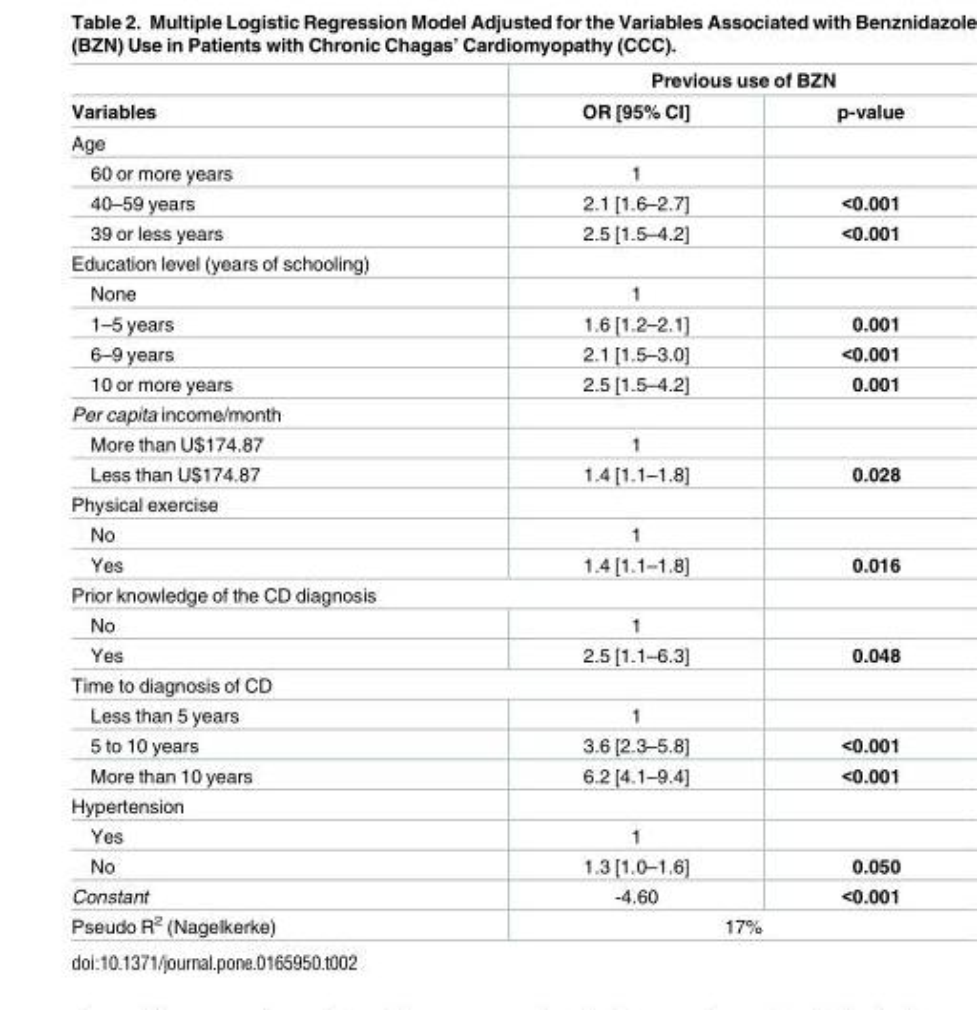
<table><thead><tr><td rowspan="2">Variables</td><td colspan="2">Previous use of BZN</td></tr><tr><td>OR [95% CI]</td><td>p-value</td></tr></thead><tbody><tr><td colspan="3">Age</td></tr><tr><td>60 or more years</td><td>1</td><td></td></tr><tr><td>40–59 years</td><td>2.1 [1.6–2.7]</td><td>&lt;0.001</td></tr><tr><td>39 or less years</td><td>2.5 [1.5–4.2]</td><td>&lt;0.001</td></tr><tr><td colspan="3">Education level (years of schooling)</td></tr><tr><td>None</td><td>1</td><td></td></tr><tr><td>1–5 years</td><td>1.6 [1.2–2.1]</td><td>0.001</td></tr><tr><td>6–9 years</td><td>2.1 [1.5–3.0]</td><td>&lt;0.001</td></tr><tr><td>10 or more years</td><td>2.5 [1.5–4.2]</td><td>0.001</td></tr><tr><td colspan="3">Per capita income/month</td></tr><tr><td>More than U$174.87</td><td>1</td><td></td></tr><tr><td>Less than U$174.87</td><td>1.4 [1.1–1.8]</td><td>0.028</td></tr><tr><td colspan="3">Physical exercise</td></tr><tr><td>No</td><td>1</td><td></td></tr><tr><td>Yes</td><td>1.4 [1.1–1.8]</td><td>0.016</td></tr><tr><td colspan="3">Prior knowledge of the CD diagnosis</td></tr><tr><td>No</td><td>1</td><td></td></tr><tr><td>Yes</td><td>2.5 [1.1–6.3]</td><td>0.048</td></tr><tr><td colspan="3">Time to diagnosis of CD</td></tr><tr><td>Less than 5 years</td><td>1</td><td></td></tr><tr><td>5 to 10 years</td><td>3.6 [2.3–5.8]</td><td>&lt;0.001</td></tr><tr><td>More than 10 years</td><td>6.2 [4.1–9.4]</td><td>&lt;0.001</td></tr><tr><td colspan="3">Hypertension</td></tr><tr><td>Yes</td><td>1</td><td></td></tr><tr><td>No</td><td>1.3 [1.0–1.6]</td><td>0.050</td></tr><tr><td>Constant</td><td>-4.60</td><td>&lt;0.001</td></tr><tr><td>Pseudo R<sup>2</sup> (Nagelkerke)</td><td colspan="2">17%</td></tr></tbody></table>